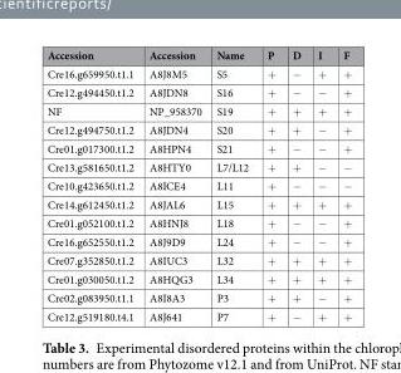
<table><thead><tr><td>Accession</td><td>Accession</td><td>Name</td><td>P</td><td>D</td><td>I</td><td>F</td></tr></thead><tbody><tr><td>Cre16.g659950.t1.1</td><td>A8J8M5</td><td>S5</td><td>+</td><td>−</td><td>+</td><td>+</td></tr><tr><td>Cre12.g494450.t1.2</td><td>A8JDN8</td><td>S16</td><td>+</td><td>−</td><td>−</td><td>+</td></tr><tr><td>NF</td><td>NP_958370</td><td>S19</td><td>+</td><td>+</td><td>+</td><td>+</td></tr><tr><td>Cre12.g494750.t1.2</td><td>A8JDN4</td><td>S20</td><td>+</td><td>+</td><td>−</td><td>+</td></tr><tr><td>Cre01.g017300.t1.2</td><td>A8HPN4</td><td>S21</td><td>+</td><td>−</td><td>−</td><td>+</td></tr><tr><td>Cre13.g581650.t1.2</td><td>A8HTY0</td><td>L7/L12</td><td>+</td><td>+</td><td>−</td><td>−</td></tr><tr><td>Cre10.g423650.t1.2</td><td>A8ICE4</td><td>L11</td><td>+</td><td>−</td><td>−</td><td>−</td></tr><tr><td>Cre14.g612450.t1.2</td><td>A8JAL6</td><td>L15</td><td>+</td><td>+</td><td>+</td><td>+</td></tr><tr><td>Cre01.g052100.t1.2</td><td>A8HNJ8</td><td>L18</td><td>+</td><td>−</td><td>−</td><td>+</td></tr><tr><td>Cre16.g652550.t1.2</td><td>A8J9D9</td><td>L24</td><td>+</td><td>−</td><td>−</td><td>+</td></tr><tr><td>Cre07.g352850.t1.2</td><td>A8IUC3</td><td>L32</td><td>+</td><td>+</td><td>+</td><td>+</td></tr><tr><td>Cre01.g030050.t1.2</td><td>A8HQG3</td><td>L34</td><td>+</td><td>+</td><td>+</td><td>+</td></tr><tr><td>Cre02.g083950.t1.1</td><td>A8I8A3</td><td>P3</td><td>+</td><td>+</td><td>−</td><td>+</td></tr><tr><td>Cre12.g519180.t4.1</td><td>A8J641</td><td>P7</td><td>+</td><td>−</td><td>+</td><td>+</td></tr></tbody></table>